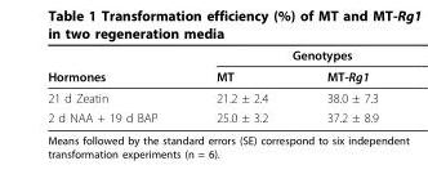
<table><thead><tr><td rowspan="2">Hormones</td><td colspan="2">Genotypes</td></tr><tr><td>MT</td><td>MT-Rg1</td></tr></thead><tbody><tr><td>21 d Zeatin</td><td>21.2 ± 2.4</td><td>38.0 ± 7.3</td></tr><tr><td>2 d NAA + 19 d BAP</td><td>25.0 ± 3.2</td><td>37.2 ± 8.9</td></tr></tbody></table>